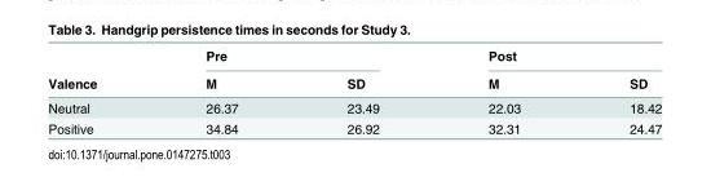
<table><thead><tr><td rowspan="2">Valence</td><td colspan="2">Pre</td><td colspan="2">Post</td></tr><tr><td>M</td><td>SD</td><td>M</td><td>SD</td></tr></thead><tbody><tr><td>Neutral</td><td>26.37</td><td>23.49</td><td>22.03</td><td>18.42</td></tr><tr><td>Positive</td><td>34.84</td><td>26.92</td><td>32.31</td><td>24.47</td></tr></tbody></table>